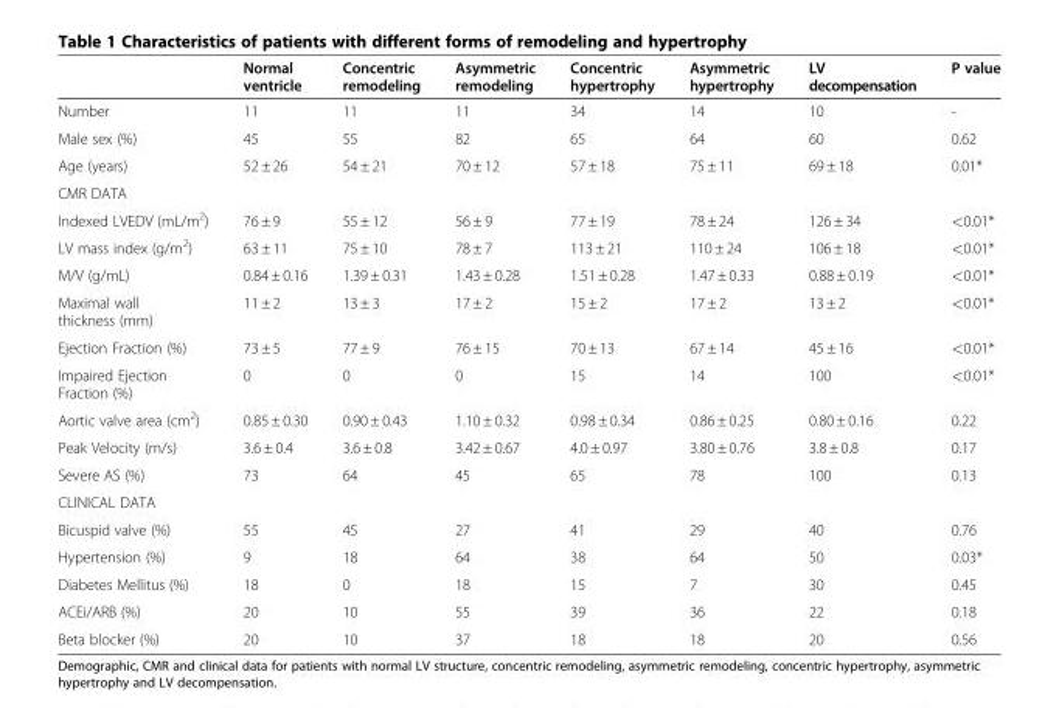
<table><thead><tr><td></td><td>Normal ventricle</td><td>Concentric remodeling</td><td>Asymmetric remodeling</td><td>Concentric hypertrophy</td><td>Asymmetric hypertrophy</td><td>LV decompensation</td><td>P value</td></tr></thead><tbody><tr><td>Number</td><td>11</td><td>11</td><td>11</td><td>34</td><td>14</td><td>10</td><td>-</td></tr><tr><td>Male sex (%)</td><td>45</td><td>55</td><td>82</td><td>65</td><td>64</td><td>60</td><td>0.62</td></tr><tr><td>Age (years)</td><td>52 ± 26</td><td>54 ± 21</td><td>70 ± 12</td><td>57 ± 18</td><td>75 ± 11</td><td>69 ± 18</td><td>0.01*</td></tr><tr><td colspan="8">CMR DATA</td></tr><tr><td>Indexed LVEDV (mL/m<sup>2</sup>)</td><td>76 ± 9</td><td>55 ± 12</td><td>56 ± 9</td><td>77 ± 19</td><td>78 ± 24</td><td>126 ± 34</td><td>&lt;0.01*</td></tr><tr><td>LV mass index (g/m<sup>2</sup>)</td><td>63 ± 11</td><td>75 ± 10</td><td>78 ± 7</td><td>113 ± 21</td><td>110 ± 24</td><td>106 ± 18</td><td>&lt;0.01*</td></tr><tr><td>M/V (g/mL)</td><td>0.84 ± 0.16</td><td>1.39 ± 0.31</td><td>1.43 ± 0.28</td><td>1.51 ± 0.28</td><td>1.47 ± 0.33</td><td>0.88 ± 0.19</td><td>&lt;0.01*</td></tr><tr><td>Maximal wall thickness (mm)</td><td>11 ± 2</td><td>13 ± 3</td><td>17 ± 2</td><td>15 ± 2</td><td>17 ± 2</td><td>13 ± 2</td><td>&lt;0.01*</td></tr><tr><td>Ejection Fraction (%)</td><td>73 ± 5</td><td>77 ± 9</td><td>76 ± 15</td><td>70 ± 13</td><td>67 ± 14</td><td>45 ± 16</td><td>&lt;0.01*</td></tr><tr><td>Impaired Ejection Fraction (%)</td><td>0</td><td>0</td><td>0</td><td>15</td><td>14</td><td>100</td><td>&lt;0.01*</td></tr><tr><td>Aortic valve area (cm<sup>2</sup>)</td><td>0.85 ± 0.30</td><td>0.90 ± 0.43</td><td>1.10 ± 0.32</td><td>0.98 ± 0.34</td><td>0.86 ± 0.25</td><td>0.80 ± 0.16</td><td>0.22</td></tr><tr><td>Peak Velocity (m/s)</td><td>3.6 ± 0.4</td><td>3.6 ± 0.8</td><td>3.42 ± 0.67</td><td>4.0 ± 0.97</td><td>3.80 ± 0.76</td><td>3.8 ± 0.8</td><td>0.17</td></tr><tr><td>Severe AS (%)</td><td>73</td><td>64</td><td>45</td><td>65</td><td>78</td><td>100</td><td>0.13</td></tr><tr><td colspan="8">CLINICAL DATA</td></tr><tr><td>Bicuspid valve (%)</td><td>55</td><td>45</td><td>27</td><td>41</td><td>29</td><td>40</td><td>0.76</td></tr><tr><td>Hypertension (%)</td><td>9</td><td>18</td><td>64</td><td>38</td><td>64</td><td>50</td><td>0.03*</td></tr><tr><td>Diabetes Mellitus (%)</td><td>18</td><td>0</td><td>18</td><td>15</td><td>7</td><td>30</td><td>0.45</td></tr><tr><td>ACEi/ARB (%)</td><td>20</td><td>10</td><td>55</td><td>39</td><td>36</td><td>22</td><td>0.18</td></tr><tr><td>Beta blocker (%)</td><td>20</td><td>10</td><td>37</td><td>18</td><td>18</td><td>20</td><td>0.56</td></tr></tbody></table>